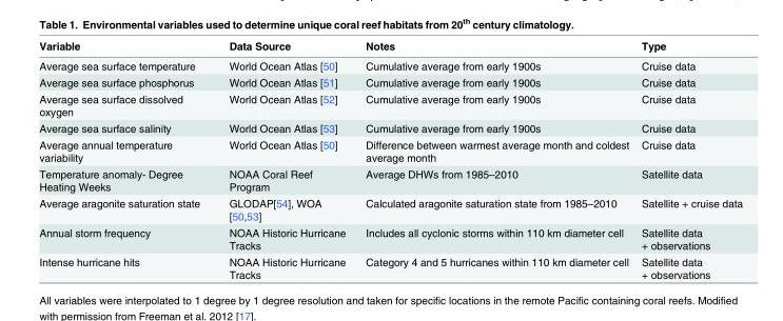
<table><thead><tr><td>Variable</td><td>Data Source</td><td>Notes</td><td>Type</td></tr></thead><tbody><tr><td>Average sea surface temperature</td><td>World Ocean Atlas [50]</td><td>Cumulative average from early 1900s</td><td>Cruise data</td></tr><tr><td>Average sea surface phosphorus</td><td>World Ocean Atlas [51]</td><td>Cumulative average from early 1900s</td><td>Cruise data</td></tr><tr><td>Average sea surface dissolved oxygen</td><td>World Ocean Atlas [52]</td><td>Cumulative average from early 1900s</td><td>Cruise data</td></tr><tr><td>Average sea surface salinity</td><td>World Ocean Atlas [53]</td><td>Cumulative average from early 1900s</td><td>Cruise data</td></tr><tr><td>Average annual temperature variability</td><td>World Ocean Atlas [50]</td><td>Difference between warmest average month and coldest average month</td><td>Cruise data</td></tr><tr><td>Temperature anomaly- Degree Heating Weeks</td><td>NOAA Coral Reef Program</td><td>Average DHWs from 1985–2010</td><td>Satellite data</td></tr><tr><td>Average aragonite saturation state</td><td>GLODAP[54], WOA [50,53]</td><td>Calculated aragonite saturation state from 1985–2010</td><td>Satellite + cruise data</td></tr><tr><td>Annual storm frequency</td><td>NOAA Historic Hurricane Tracks</td><td>Includes all cyclonic storms within 110 km diameter cell</td><td>Satellite data + observations</td></tr><tr><td>Intense hurricane hits</td><td>NOAA Historic Hurricane Tracks</td><td>Category 4 and 5 hurricanes within 110 km diameter cell</td><td>Satellite data + observations</td></tr></tbody></table>